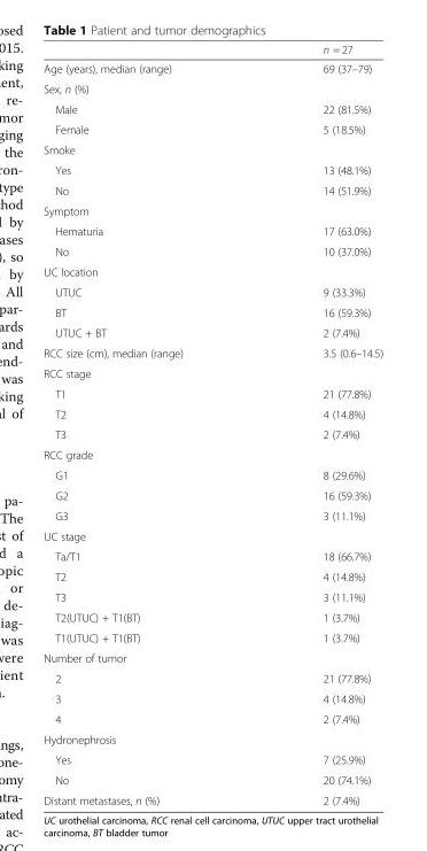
<table><thead><tr><td></td><td>n = 27</td></tr></thead><tbody><tr><td>Age (years), median (range)</td><td>69 (37–79)</td></tr><tr><td colspan="2">Sex, n (%)</td></tr><tr><td>Male</td><td>22 (81.5%)</td></tr><tr><td>Female</td><td>5 (18.5%)</td></tr><tr><td colspan="2">Smoke</td></tr><tr><td>Yes</td><td>13 (48.1%)</td></tr><tr><td>No</td><td>14 (51.9%)</td></tr><tr><td colspan="2">Symptom</td></tr><tr><td>Hematuria</td><td>17 (63.0%)</td></tr><tr><td>No</td><td>10 (37.0%)</td></tr><tr><td colspan="2">UC location</td></tr><tr><td>UTUC</td><td>9 (33.3%)</td></tr><tr><td>BT</td><td>16 (59.3%)</td></tr><tr><td>UTUC + BT</td><td>2 (7.4%)</td></tr><tr><td>RCC size (cm), median (range)</td><td>3.5 (0.6–14.5)</td></tr><tr><td colspan="2">RCC stage</td></tr><tr><td>T1</td><td>21 (77.8%)</td></tr><tr><td>T2</td><td>4 (14.8%)</td></tr><tr><td>T3</td><td>2 (7.4%)</td></tr><tr><td colspan="2">RCC grade</td></tr><tr><td>G1</td><td>8 (29.6%)</td></tr><tr><td>G2</td><td>16 (59.3%)</td></tr><tr><td>G3</td><td>3 (11.1%)</td></tr><tr><td colspan="2">UC stage</td></tr><tr><td>Ta/T1</td><td>18 (66.7%)</td></tr><tr><td>T2</td><td>4 (14.8%)</td></tr><tr><td>T3</td><td>3 (11.1%)</td></tr><tr><td>T2(UTUC) + T1(BT)</td><td>1 (3.7%)</td></tr><tr><td>T1(UTUC) + T1(BT)</td><td>1 (3.7%)</td></tr><tr><td colspan="2">Number of tumor</td></tr><tr><td>2</td><td>21 (77.8%)</td></tr><tr><td>3</td><td>4 (14.8%)</td></tr><tr><td>4</td><td>2 (7.4%)</td></tr><tr><td colspan="2">Hydronephrosis</td></tr><tr><td>Yes</td><td>7 (25.9%)</td></tr><tr><td>No</td><td>20 (74.1%)</td></tr><tr><td>Distant metastases, n (%)</td><td>2 (7.4%)</td></tr></tbody></table>